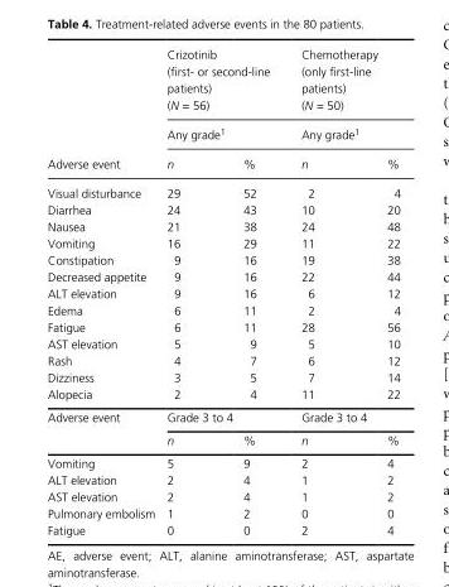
<table><thead><tr><td rowspan="3">Adverse event</td><td rowspan="2" colspan="2">Crizotinib (first- or second- line patients) (N = 56) Any grade1</td><td rowspan="2" colspan="2">Chemotherapy (only first- line patients) (N = 50) Any grade1</td></tr><tr></tr><tr><td>n</td><td>%</td><td>n</td><td>%</td></tr></thead><tbody><tr><td>Visual disturbance</td><td>29</td><td>52</td><td>2</td><td>4</td></tr><tr><td>Diarrhea</td><td>24</td><td>43</td><td>10</td><td>20</td></tr><tr><td>Nausea</td><td>21</td><td>38</td><td>24</td><td>48</td></tr><tr><td>Vomiting</td><td>16</td><td>29</td><td>11</td><td>22</td></tr><tr><td>Constipation</td><td>9</td><td>16</td><td>19</td><td>38</td></tr><tr><td>Decreased appetite</td><td>9</td><td>16</td><td>22</td><td>44</td></tr><tr><td>ALT elevation</td><td>9</td><td>16</td><td>6</td><td>12</td></tr><tr><td>Edema</td><td>6</td><td>11</td><td>2</td><td>4</td></tr><tr><td>Fatigue</td><td>6</td><td>11</td><td>28</td><td>56</td></tr><tr><td>AST elevation</td><td>5</td><td>9</td><td>5</td><td>10</td></tr><tr><td>Rash</td><td>4</td><td>7</td><td>6</td><td>12</td></tr><tr><td>Dizziness</td><td>3</td><td>5</td><td>7</td><td>14</td></tr><tr><td>Alopecia</td><td>2</td><td>4</td><td>11</td><td>22</td></tr><tr><td rowspan="2">Adverse event</td><td colspan="2">Grade 3 to 4</td><td colspan="2">Grade 3 to 4</td></tr><tr><td>n</td><td>%</td><td>n</td><td>%</td></tr><tr><td>Vomiting</td><td>5</td><td>9</td><td>2</td><td>4</td></tr><tr><td>ALT elevation</td><td>2</td><td>4</td><td>1</td><td>2</td></tr><tr><td>AST elevation</td><td>2</td><td>4</td><td>1</td><td>2</td></tr><tr><td>Pulmonary embolism</td><td>1</td><td>2</td><td>0</td><td>0</td></tr><tr><td>Fatigue</td><td>0</td><td>0</td><td>2</td><td>4</td></tr></tbody></table>